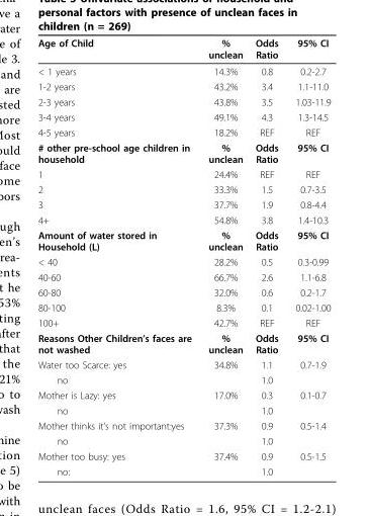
<table><thead><tr><td>Age of Child</td><td>% unclean</td><td>Odds Ratio</td><td>95% CI</td></tr></thead><tbody><tr><td>&lt; 1 years</td><td>14.3%</td><td>0.8</td><td>0.2-2.7</td></tr><tr><td>1-2 years</td><td>43.2%</td><td>3.4</td><td>1.1-11.0</td></tr><tr><td>2-3 years</td><td>43.8%</td><td>3.5</td><td>1.03-11.9</td></tr><tr><td>3-4 years</td><td>49.1%</td><td>4.3</td><td>1.3-14.5</td></tr><tr><td>4-5 years</td><td>18.2%</td><td>REF</td><td>REF</td></tr><tr><td># other pre-school age children in household</td><td>% unclean</td><td>Odds Ratio</td><td>95% CI</td></tr><tr><td>1</td><td>24.4%</td><td>REF</td><td>REF</td></tr><tr><td>2</td><td>33.3%</td><td>1.5</td><td>0.7-3.5</td></tr><tr><td>3</td><td>37.7%</td><td>1.9</td><td>0.8-4.4</td></tr><tr><td>4+</td><td>54.8%</td><td>3.8</td><td>1.4-10.3</td></tr><tr><td>Amount of water stored in Household (L)</td><td>% unclean</td><td>Odds Ratio</td><td>95% CI</td></tr><tr><td>&lt; 40</td><td>28.2%</td><td>0.5</td><td>0.3-0.99</td></tr><tr><td>40-60</td><td>66.7%</td><td>2.6</td><td>1.1-6.8</td></tr><tr><td>60-80</td><td>32.0%</td><td>0.6</td><td>0.2-1.7</td></tr><tr><td>80-100</td><td>8.3%</td><td>0.1</td><td>0.02-1.00</td></tr><tr><td>100+</td><td>42.7%</td><td>REF</td><td>REF</td></tr><tr><td>Reasons Other Children’s faces are not washed</td><td>% unclean</td><td>Odds Ratio</td><td>95% CI</td></tr><tr><td>Water too Scarce: yes</td><td>34.8%</td><td>1.1</td><td>0.7-1.9</td></tr><tr><td>no</td><td></td><td>1.0</td><td></td></tr><tr><td>Mother is Lazy: yes</td><td>17.0%</td><td>0.3</td><td>0.1-0.7</td></tr><tr><td>no</td><td></td><td>1.0</td><td></td></tr><tr><td>Mother thinks it’s not important:yes</td><td>37.3%</td><td>0.9</td><td>0.5-1.4</td></tr><tr><td>no</td><td></td><td>1.0</td><td></td></tr><tr><td>Mother too busy: yes</td><td>37.4%</td><td>0.9</td><td>0.5-1.5</td></tr><tr><td>no:</td><td></td><td>1.0</td><td></td></tr></tbody></table>